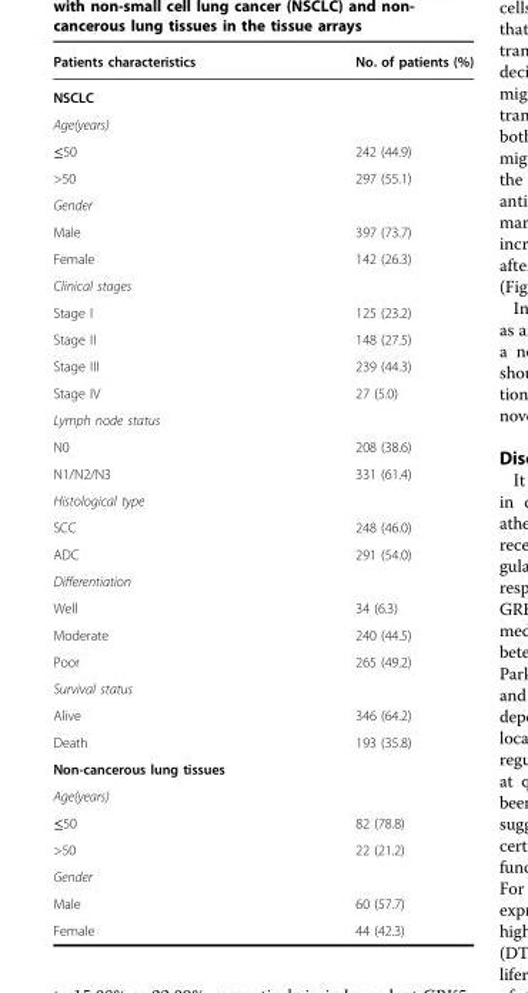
<table><thead><tr><td>Patients characteristics</td><td>No. of patients (%)</td></tr></thead><tbody><tr><td colspan="2">NSCLC</td></tr><tr><td colspan="2">Age(years)</td></tr><tr><td>≤50</td><td>242 (44.9)</td></tr><tr><td>&gt;50</td><td>297 (55.1)</td></tr><tr><td colspan="2">Gender</td></tr><tr><td>Male</td><td>397 (73.7)</td></tr><tr><td>Female</td><td>142 (26.3)</td></tr><tr><td colspan="2">Clinical stages</td></tr><tr><td>Stage I</td><td>125 (23.2)</td></tr><tr><td>Stage II</td><td>148 (27.5)</td></tr><tr><td>Stage III</td><td>239 (44.3)</td></tr><tr><td>Stage IV</td><td>27 (5.0)</td></tr><tr><td colspan="2">Lymph node status</td></tr><tr><td>N0</td><td>208 (38.6)</td></tr><tr><td>N1/N2/N3</td><td>331 (61.4)</td></tr><tr><td colspan="2">Histological type</td></tr><tr><td>SCC</td><td>248 (46.0)</td></tr><tr><td>ADC</td><td>291 (54.0)</td></tr><tr><td colspan="2">Differentiation</td></tr><tr><td>Well</td><td>34 (6.3)</td></tr><tr><td>Moderate</td><td>240 (44.5)</td></tr><tr><td>Poor</td><td>265 (49.2)</td></tr><tr><td colspan="2">Survival status</td></tr><tr><td>Alive</td><td>346 (64.2)</td></tr><tr><td>Death</td><td>193 (35.8)</td></tr><tr><td colspan="2">Non-cancerous lung tissues</td></tr><tr><td colspan="2">Age(years)</td></tr><tr><td>≤50</td><td>82 (78.8)</td></tr><tr><td>&gt;50</td><td>22 (21.2)</td></tr><tr><td colspan="2">Gender</td></tr><tr><td>Male</td><td>60 (57.7)</td></tr><tr><td>Female</td><td>44 (42.3)</td></tr></tbody></table>